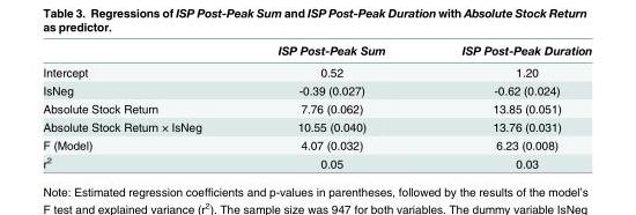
<table><thead><tr><td></td><td>ISP Post-Peak Sum</td><td>ISP Post-Peak Duration</td></tr></thead><tbody><tr><td>Intercept</td><td>0.52</td><td>1.20</td></tr><tr><td>IsNeg</td><td>-0.39 (0.027)</td><td>-0.62 (0.024)</td></tr><tr><td>Absolute Stock Return</td><td>7.76 (0.062)</td><td>13.85 (0.051)</td></tr><tr><td>Absolute Stock Return × IsNeg</td><td>10.55 (0.040)</td><td>13.76 (0.031)</td></tr><tr><td>F (Model)</td><td>4.07 (0.032)</td><td>6.23 (0.008)</td></tr><tr><td>r<sup>2</sup></td><td>0.05</td><td>0.03</td></tr></tbody></table>